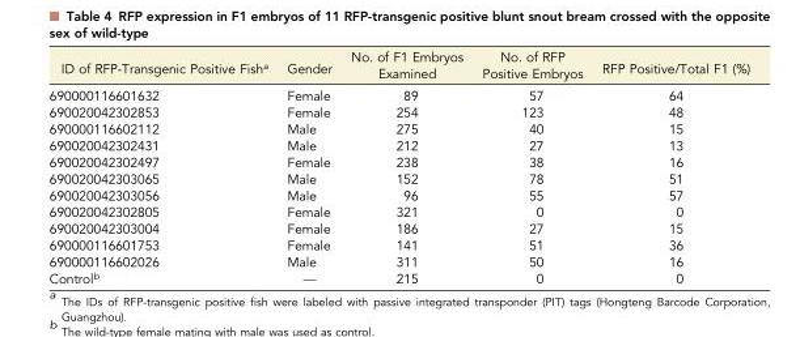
<table><thead><tr><td>ID of RFP-Transgenic Positive Fish<sup>a</sup></td><td>Gender</td><td>No. of F1 Embryos Examined</td><td>No. of RFP Positive Embryos</td><td>RFP Positive/Total F1 (%)</td></tr></thead><tbody><tr><td>690000116601632</td><td>Female</td><td>89</td><td>57</td><td>64</td></tr><tr><td>690020042302853</td><td>Female</td><td>254</td><td>123</td><td>48</td></tr><tr><td>690000116602112</td><td>Male</td><td>275</td><td>40</td><td>15</td></tr><tr><td>690020042302431</td><td>Male</td><td>212</td><td>27</td><td>13</td></tr><tr><td>690020042302497</td><td>Female</td><td>238</td><td>38</td><td>16</td></tr><tr><td>690020042303065</td><td>Male</td><td>152</td><td>78</td><td>51</td></tr><tr><td>690020042303056</td><td>Male</td><td>96</td><td>55</td><td>57</td></tr><tr><td>690020042302805</td><td>Female</td><td>321</td><td>0</td><td>0</td></tr><tr><td>690020042303004</td><td>Female</td><td>186</td><td>27</td><td>15</td></tr><tr><td>690000116601753</td><td>Female</td><td>141</td><td>51</td><td>36</td></tr><tr><td>690000116602026</td><td>Male</td><td>311</td><td>50</td><td>16</td></tr><tr><td>Control<sup>b</sup></td><td>—</td><td>215</td><td>0</td><td>0</td></tr></tbody></table>